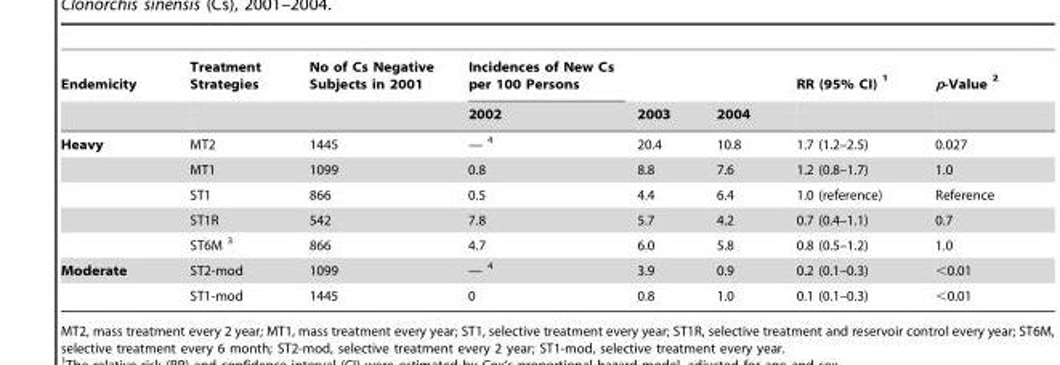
<table><thead><tr><td rowspan="2">Endemicity</td><td rowspan="2">Treatment Strategies</td><td rowspan="2">No of Cs Negative Subjects in 2001</td><td rowspan="2">Incidences of New Cs per 100 Persons 2002</td><td rowspan="2">2003</td><td rowspan="2">2004</td><td rowspan="2">RR (95% CI) 1</td><td rowspan="2">p-Value 2</td></tr><tr></tr></thead><tbody><tr><td rowspan="5">Heavy</td><td>MT2</td><td>1445</td><td>— 4</td><td>20.4</td><td>10.8</td><td>1.7 (1.2–2.5)</td><td>0.027</td></tr><tr><td>MT1</td><td>1099</td><td>0.8</td><td>8.8</td><td>7.6</td><td>1.2 (0.8–1.7)</td><td>1.0</td></tr><tr><td>ST1</td><td>866</td><td>0.5</td><td>4.4</td><td>6.4</td><td>1.0 (reference)</td><td>Reference</td></tr><tr><td>ST1R</td><td>542</td><td>7.8</td><td>5.7</td><td>4.2</td><td>0.7 (0.4–1.1)</td><td>0.7</td></tr><tr><td>ST6M 3</td><td>866</td><td>4.7</td><td>6.0</td><td>5.8</td><td>0.8 (0.5–1.2)</td><td>1.0</td></tr><tr><td rowspan="2">Moderate</td><td>ST2-mod</td><td>1099</td><td>— 4</td><td>3.9</td><td>0.9</td><td>0.2 (0.1–0.3)</td><td>&lt;0.01</td></tr><tr><td>ST1-mod</td><td>1445</td><td>0</td><td>0.8</td><td>1.0</td><td>0.1 (0.1–0.3)</td><td>&lt;0.01</td></tr></tbody></table>